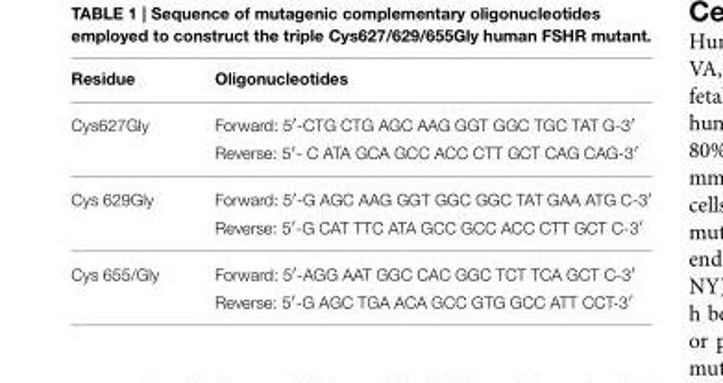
<table><thead><tr><td>Residue</td><td>Oligonucleotides</td></tr></thead><tbody><tr><td rowspan="2">Cys627Gly</td><td>Forward: 5′-CTG CTG AGC AAG GGT GGC TGC TAT G-3′</td></tr><tr><td>Reverse: 5′- C ATA GCA GCC ACC CTT GCT CAG CAG-3′</td></tr><tr><td rowspan="2">Cys 629Gly</td><td>Forward: 5′-G AGC AAG GGT GGC GGC TAT GAA ATG C-3′</td></tr><tr><td>Reverse: 5′-G CAT TTC ATA GCC GCC ACC CTT GCT C-3′</td></tr><tr><td rowspan="2">Cys 655/Gly</td><td>Forward: 5′-AGG AAT GGC CAC GGC TCT TCA GCT C-3′</td></tr><tr><td>Reverse: 5′-G AGC TGA ACA GCC GTG GCC ATT CCT-3′</td></tr></tbody></table>